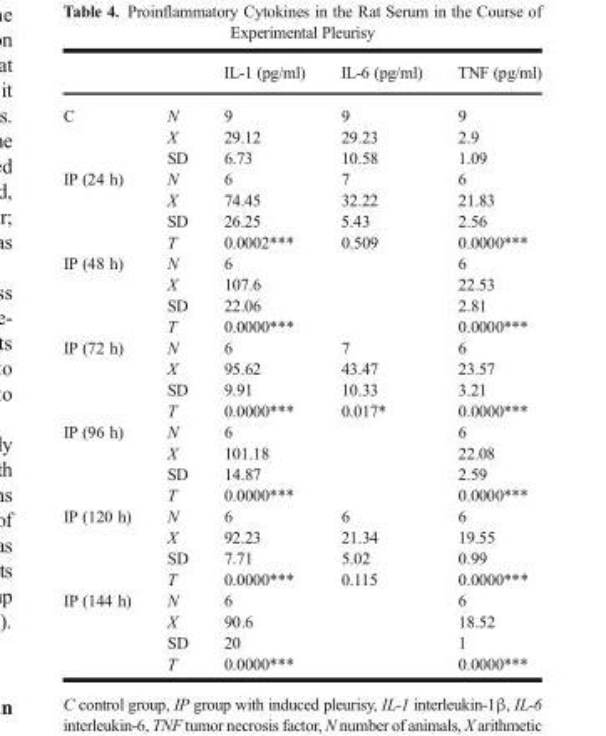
<table><thead><tr><td></td><td></td><td>IL-1 (pg/ml)</td><td>IL-6 (pg/ml)</td><td>TNF (pg/ml)</td></tr></thead><tbody><tr><td rowspan="3">C</td><td>N</td><td>9</td><td>9</td><td>9</td></tr><tr><td>X</td><td>29.12</td><td>29.23</td><td>2.9</td></tr><tr><td>SD</td><td>6.73</td><td>10.58</td><td>1.09</td></tr><tr><td rowspan="4">IP (24 h)</td><td>N</td><td>6</td><td>7</td><td>6</td></tr><tr><td>X</td><td>74.45</td><td>32.22</td><td>21.83</td></tr><tr><td>SD</td><td>26.25</td><td>5.43</td><td>2.56</td></tr><tr><td>T</td><td>0.0002***</td><td>0.509</td><td>0.0000***</td></tr><tr><td rowspan="4">IP (48 h)</td><td>N</td><td>6</td><td rowspan="4"></td><td>6</td></tr><tr><td>X</td><td>107.6</td><td>22.53</td></tr><tr><td>SD</td><td>22.06</td><td>2.81</td></tr><tr><td>T</td><td>0.0000***</td><td>0.0000***</td></tr><tr><td rowspan="4">IP (72 h)</td><td>N</td><td>6</td><td>7</td><td>6</td></tr><tr><td>X</td><td>95.62</td><td>43.47</td><td>23.57</td></tr><tr><td>SD</td><td>9.91</td><td>10.33</td><td>3.21</td></tr><tr><td>T</td><td>0.0000***</td><td>0.017*</td><td>0.0000***</td></tr><tr><td rowspan="4">IP (96 h)</td><td>N</td><td>6</td><td rowspan="4"></td><td>6</td></tr><tr><td>X</td><td>101.18</td><td>22.08</td></tr><tr><td>SD</td><td>14.87</td><td>2.59</td></tr><tr><td>T</td><td>0.0000***</td><td>0.0000***</td></tr><tr><td rowspan="4">IP (120 h)</td><td>N</td><td>6</td><td>6</td><td>6</td></tr><tr><td>X</td><td>92.23</td><td>21.34</td><td>19.55</td></tr><tr><td>SD</td><td>7.71</td><td>5.02</td><td>0.99</td></tr><tr><td>T</td><td>0.0000***</td><td>0.115</td><td>0.0000***</td></tr><tr><td rowspan="4">IP (144 h)</td><td>N</td><td>6</td><td rowspan="4"></td><td>6</td></tr><tr><td>X</td><td>90.6</td><td>18.52</td></tr><tr><td>SD</td><td>20</td><td>1</td></tr><tr><td>T</td><td>0.0000***</td><td>0.0000***</td></tr></tbody></table>